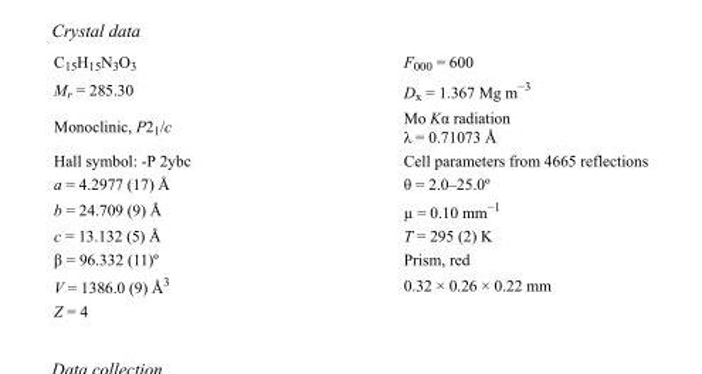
<table><tbody><tr><td>C<sub>15</sub>H<sub>15</sub>N<sub>3</sub>O<sub>3</sub></td><td>F<sub>000</sub> = 600</td></tr><tr><td>M<sub>r</sub> = 285.30</td><td>D<sub>x</sub> = 1.367 Mg m<sup>−3</sup></td></tr><tr><td>Monoclinic, P2<sub>1</sub>/c</td><td>Mo Kα radiation λ = 0.71073 Å</td></tr><tr><td>Hall symbol: -P 2ybc</td><td>Cell parameters from 4665 reflections</td></tr><tr><td>a = 4.2977 (17) Å</td><td>θ = 2.0–25.0º</td></tr><tr><td>b = 24.709 (9) Å</td><td>µ = 0.10 mm<sup>−1</sup></td></tr><tr><td>c = 13.132 (5) Å</td><td>T = 295 (2) K</td></tr><tr><td>β = 96.332 (11)º</td><td>Prism, red</td></tr><tr><td>V = 1386.0 (9) Å<sup>3</sup></td><td>0.32 × 0.26 × 0.22 mm</td></tr><tr><td>Z = 4</td><td></td></tr></tbody></table>